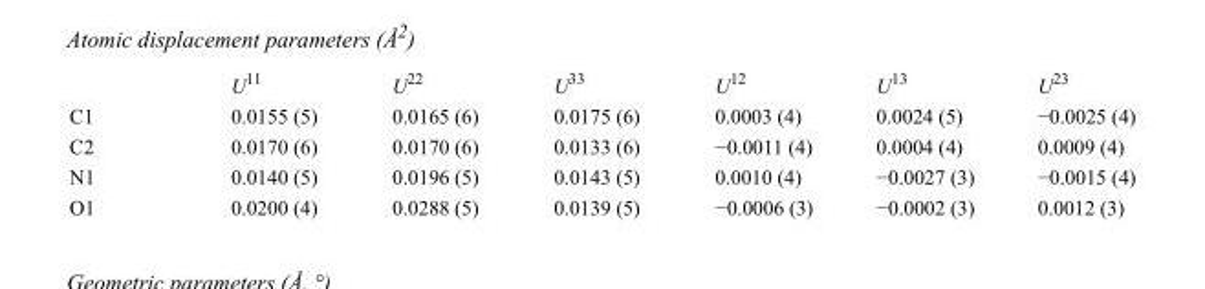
<table><thead><tr><td></td><td>U<sup>11</sup></td><td>U<sup>22</sup></td><td>U<sup>33</sup></td><td>U<sup>12</sup></td><td>U<sup>13</sup></td><td>U<sup>23</sup></td></tr></thead><tbody><tr><td>C1</td><td>0.0155 (5)</td><td>0.0165 (6)</td><td>0.0175 (6)</td><td>0.0003 (4)</td><td>0.0024 (5)</td><td>−0.0025 (4)</td></tr><tr><td>C2</td><td>0.0170 (6)</td><td>0.0170 (6)</td><td>0.0133 (6)</td><td>−0.0011 (4)</td><td>0.0004 (4)</td><td>0.0009 (4)</td></tr><tr><td>N1</td><td>0.0140 (5)</td><td>0.0196 (5)</td><td>0.0143 (5)</td><td>0.0010 (4)</td><td>−0.0027 (3)</td><td>−0.0015 (4)</td></tr><tr><td>O1</td><td>0.0200 (4)</td><td>0.0288 (5)</td><td>0.0139 (5)</td><td>−0.0006 (3)</td><td>−0.0002 (3)</td><td>0.0012 (3)</td></tr></tbody></table>